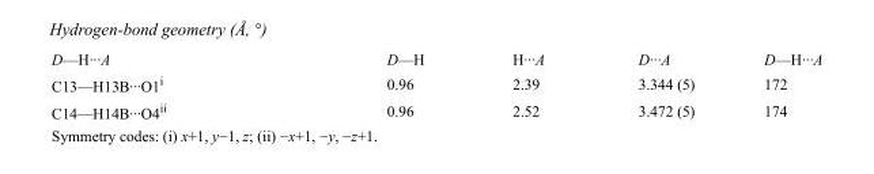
<table><tbody><tr><td>D—H···A</td><td>D—H</td><td>H···A</td><td>D···A</td><td>D—H···A</td></tr><tr><td>C13—H13B···O1<sup>i</sup></td><td>0.96</td><td>2.39</td><td>3.344 (5)</td><td>172</td></tr><tr><td>C14—H14B···O4<sup>ii</sup></td><td>0.96</td><td>2.52</td><td>3.472 (5)</td><td>174</td></tr></tbody></table>